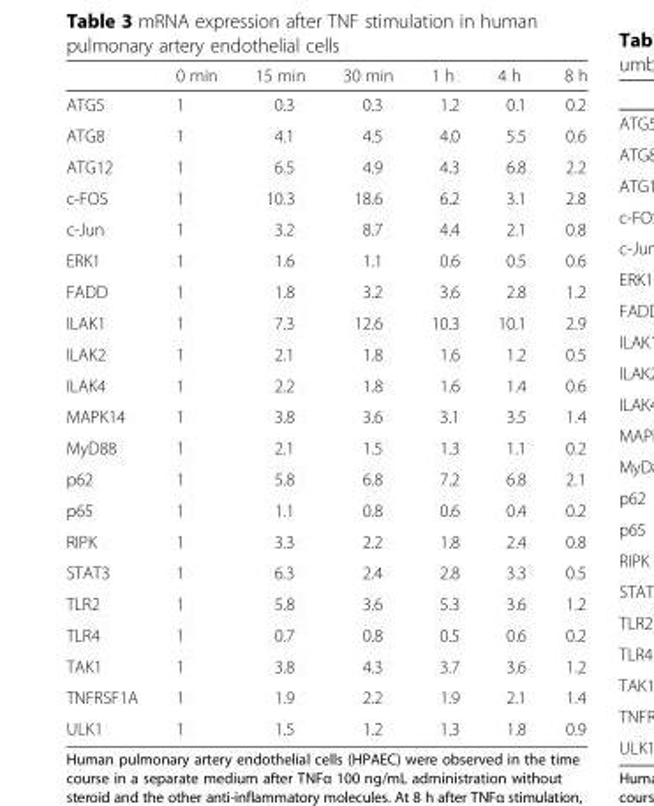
<table><thead><tr><td></td><td>0 min</td><td>15 min</td><td>30 min</td><td>1 h</td><td>4 h</td><td>8 h</td></tr></thead><tbody><tr><td>ATG5</td><td>1</td><td>0.3</td><td>0.3</td><td>1.2</td><td>0.1</td><td>0.2</td></tr><tr><td>ATG8</td><td>1</td><td>4.1</td><td>4.5</td><td>4.0</td><td>5.5</td><td>0.6</td></tr><tr><td>ATG12</td><td>1</td><td>6.5</td><td>4.9</td><td>4.3</td><td>6.8</td><td>2.2</td></tr><tr><td>c-FOS</td><td>1</td><td>10.3</td><td>18.6</td><td>6.2</td><td>3.1</td><td>2.8</td></tr><tr><td>c-Jun</td><td>1</td><td>3.2</td><td>8.7</td><td>4.4</td><td>2.1</td><td>0.8</td></tr><tr><td>ERK1</td><td>1</td><td>1.6</td><td>1.1</td><td>0.6</td><td>0.5</td><td>0.6</td></tr><tr><td>FADD</td><td>1</td><td>1.8</td><td>3.2</td><td>3.6</td><td>2.8</td><td>1.2</td></tr><tr><td>ILAK1</td><td>1</td><td>7.3</td><td>12.6</td><td>10.3</td><td>10.1</td><td>2.9</td></tr><tr><td>ILAK2</td><td>1</td><td>2.1</td><td>1.8</td><td>1.6</td><td>1.2</td><td>0.5</td></tr><tr><td>ILAK4</td><td>1</td><td>2.2</td><td>1.8</td><td>1.6</td><td>1.4</td><td>0.6</td></tr><tr><td>MAPK14</td><td>1</td><td>3.8</td><td>3.6</td><td>3.1</td><td>3.5</td><td>1.4</td></tr><tr><td>MyD88</td><td>1</td><td>2.1</td><td>1.5</td><td>1.3</td><td>1.1</td><td>0.2</td></tr><tr><td>p62</td><td>1</td><td>5.8</td><td>6.8</td><td>7.2</td><td>6.8</td><td>2.1</td></tr><tr><td>p65</td><td>1</td><td>1.1</td><td>0.8</td><td>0.6</td><td>0.4</td><td>0.2</td></tr><tr><td>RIPK</td><td>1</td><td>3.3</td><td>2.2</td><td>1.8</td><td>2.4</td><td>0.8</td></tr><tr><td>STAT3</td><td>1</td><td>6.3</td><td>2.4</td><td>2.8</td><td>3.3</td><td>0.5</td></tr><tr><td>TLR2</td><td>1</td><td>5.8</td><td>3.6</td><td>5.3</td><td>3.6</td><td>1.2</td></tr><tr><td>TLR4</td><td>1</td><td>0.7</td><td>0.8</td><td>0.5</td><td>0.6</td><td>0.2</td></tr><tr><td>TAK1</td><td>1</td><td>3.8</td><td>4.3</td><td>3.7</td><td>3.6</td><td>1.2</td></tr><tr><td>TNFRSF1A</td><td>1</td><td>1.9</td><td>2.2</td><td>1.9</td><td>2.1</td><td>1.4</td></tr><tr><td>ULK1</td><td>1</td><td>1.5</td><td>1.2</td><td>1.3</td><td>1.8</td><td>0.9</td></tr></tbody></table>